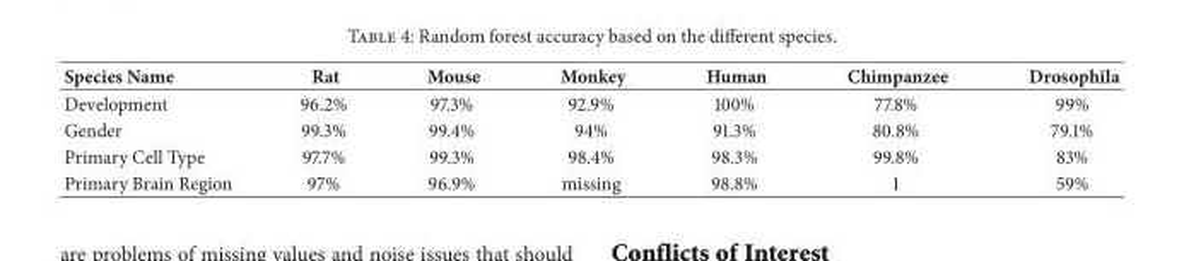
<table><thead><tr><td>Species Name</td><td>Rat</td><td>Mouse</td><td>Monkey</td><td>Human</td><td>Chimpanzee</td><td>Drosophila</td></tr></thead><tbody><tr><td>Development</td><td>96.2%</td><td>97.3%</td><td>92.9%</td><td>100%</td><td>77.8%</td><td>99%</td></tr><tr><td>Gender</td><td>99.3%</td><td>99.4%</td><td>94%</td><td>91.3%</td><td>80.8%</td><td>79.1%</td></tr><tr><td>Primary Cell Type</td><td>97.7%</td><td>99.3%</td><td>98.4%</td><td>98.3%</td><td>99.8%</td><td>83%</td></tr><tr><td>Primary Brain Region</td><td>97%</td><td>96.9%</td><td>missing</td><td>98.8%</td><td>1</td><td>59%</td></tr></tbody></table>